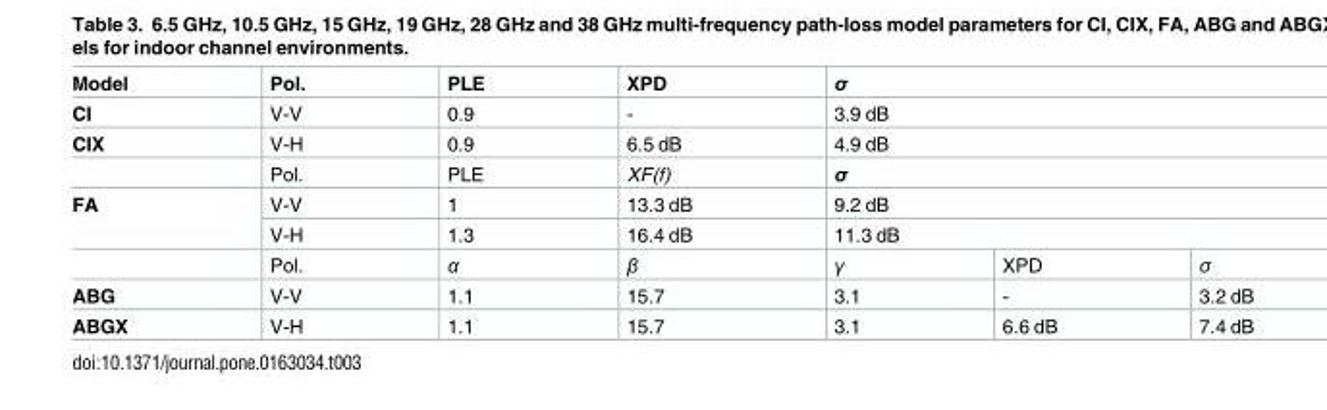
<table><tbody><tr><td>Model</td><td>Pol.</td><td>PLE</td><td>XPD</td><td colspan="3">σ</td></tr><tr><td>CI</td><td>V-V</td><td>0.9</td><td>-</td><td colspan="3">3.9 dB</td></tr><tr><td rowspan="2">CIX</td><td>V-H</td><td>0.9</td><td>6.5 dB</td><td colspan="3">4.9 dB</td></tr><tr><td>Pol.</td><td>PLE</td><td>XF(f)</td><td colspan="3">σ</td></tr><tr><td rowspan="3">FA</td><td>V-V</td><td>1</td><td>13.3 dB</td><td colspan="3">9.2 dB</td></tr><tr><td>V-H</td><td>1.3</td><td>16.4 dB</td><td colspan="3">11.3 dB</td></tr><tr><td>Pol.</td><td>α</td><td>β</td><td>γ</td><td>XPD</td><td>σ</td></tr><tr><td>ABG</td><td>V-V</td><td>1.1</td><td>15.7</td><td>3.1</td><td>-</td><td>3.2 dB</td></tr><tr><td>ABGX</td><td>V-H</td><td>1.1</td><td>15.7</td><td>3.1</td><td>6.6 dB</td><td>7.4 dB</td></tr></tbody></table>